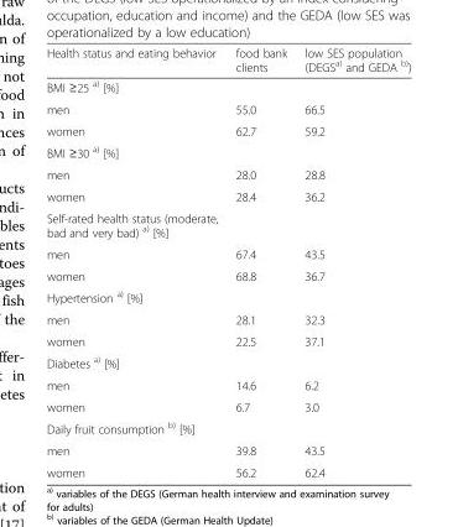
<table><thead><tr><td>Health status and eating behavior</td><td>food bank clients</td><td>low SES population (DEGS<sup>a)</sup> and GEDA <sup>b)</sup>)</td></tr></thead><tbody><tr><td colspan="3">BMI ≥25 <sup>a)</sup> [%]</td></tr><tr><td>men</td><td>55.0</td><td>66.5</td></tr><tr><td>women</td><td>62.7</td><td>59.2</td></tr><tr><td colspan="3">BMI ≥30 <sup>a)</sup> [%]</td></tr><tr><td>men</td><td>28.0</td><td>28.8</td></tr><tr><td>women</td><td>28.4</td><td>36.2</td></tr><tr><td colspan="3">Self-rated health status (moderate, bad and very bad) <sup>a)</sup> [%]</td></tr><tr><td>men</td><td>67.4</td><td>43.5</td></tr><tr><td>women</td><td>68.8</td><td>36.7</td></tr><tr><td colspan="3">Hypertension <sup>a)</sup> [%]</td></tr><tr><td>men</td><td>28.1</td><td>32.3</td></tr><tr><td>women</td><td>22.5</td><td>37.1</td></tr><tr><td colspan="3">Diabetes <sup>a)</sup> [%]</td></tr><tr><td>men</td><td>14.6</td><td>6.2</td></tr><tr><td>women</td><td>6.7</td><td>3.0</td></tr><tr><td colspan="3">Daily fruit consumption <sup>b)</sup> [%]</td></tr><tr><td>men</td><td>39.8</td><td>43.5</td></tr><tr><td>women</td><td>56.2</td><td>62.4</td></tr></tbody></table>